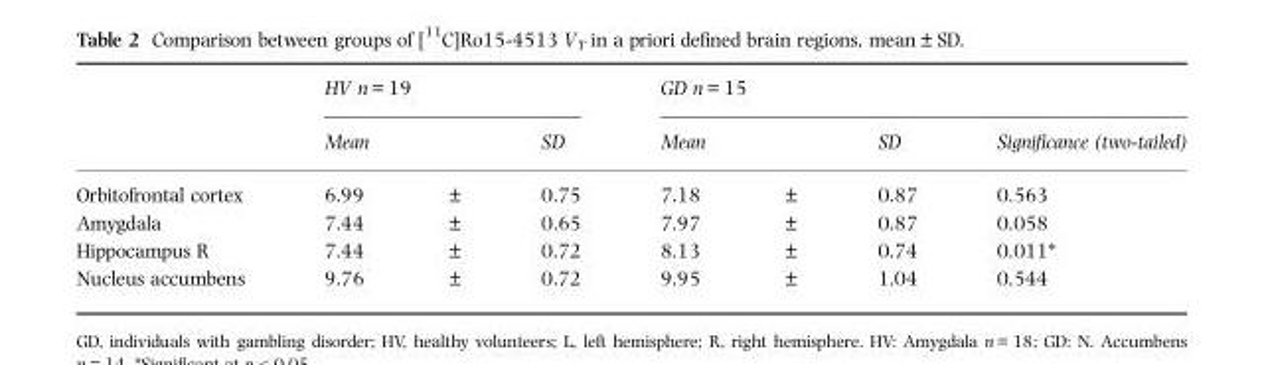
<table><thead><tr><td rowspan="2"></td><td colspan="3">HV n = 19</td><td colspan="3">GD n = 15</td><td rowspan="2">Significance (two-tailed)</td></tr><tr><td>Mean</td><td></td><td>SD</td><td>Mean</td><td></td><td>SD</td></tr></thead><tbody><tr><td>Orbitofrontal cortex</td><td>6.99</td><td>±</td><td>0.75</td><td>7.18</td><td>±</td><td>0.87</td><td>0.563</td></tr><tr><td>Amygdala</td><td>7.44</td><td>±</td><td>0.65</td><td>7.97</td><td>±</td><td>0.87</td><td>0.058</td></tr><tr><td>Hippocampus R</td><td>7.44</td><td>±</td><td>0.72</td><td>8.13</td><td>±</td><td>0.74</td><td>0.011*</td></tr><tr><td>Nucleus accumbens</td><td>9.76</td><td>±</td><td>0.72</td><td>9.95</td><td>±</td><td>1.04</td><td>0.544</td></tr></tbody></table>